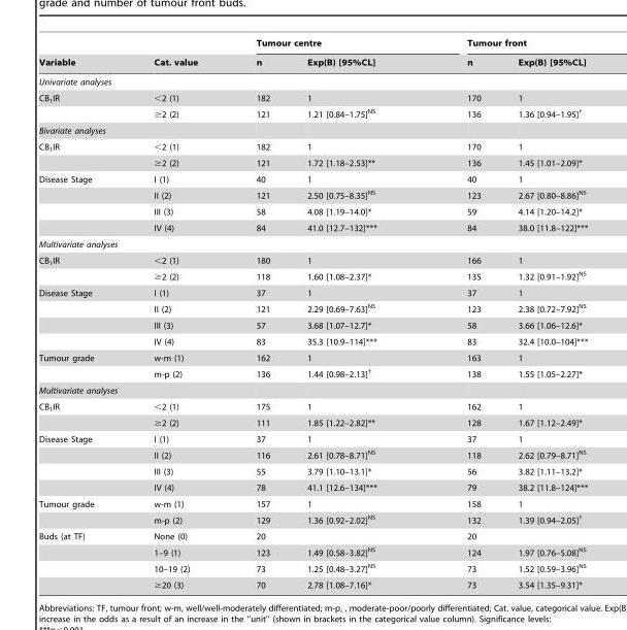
<table><thead><tr><td rowspan="2">Variable</td><td rowspan="2">Cat. value</td><td colspan="2">Tumour centre</td><td colspan="2">Tumour front</td></tr><tr><td>n</td><td>Exp(B) [95%CL]</td><td>n</td><td>Exp(B) [95%CL]</td></tr></thead><tbody><tr><td colspan="6">Univariate analyses</td></tr><tr><td rowspan="2">CB<sub>1</sub>IR</td><td>&lt;2 (1)</td><td>182</td><td>1</td><td>170</td><td>1</td></tr><tr><td>≥2 (2)</td><td>121</td><td>1.21 [0.84–1.75]<sup>NS</sup></td><td>136</td><td>1.36 [0.94–1.95]†</td></tr><tr><td colspan="6">Bivariate analyses</td></tr><tr><td rowspan="2">CB<sub>1</sub>IR</td><td>&lt;2 (1)</td><td>182</td><td>1</td><td>170</td><td>1</td></tr><tr><td>≥2 (2)</td><td>121</td><td>1.72 [1.18–2.53]**</td><td>136</td><td>1.45 [1.01–2.09]*</td></tr><tr><td rowspan="4">Disease Stage</td><td>I (1)</td><td>40</td><td>1</td><td>40</td><td>1</td></tr><tr><td>II (2)</td><td>121</td><td>2.50 [0.75–8.35]<sup>NS</sup></td><td>123</td><td>2.67 [0.80–8.86]<sup>NS</sup></td></tr><tr><td>III (3)</td><td>58</td><td>4.08 [1.19–14.0]*</td><td>59</td><td>4.14 [1.20–14.2]*</td></tr><tr><td>IV (4)</td><td>84</td><td>41.0 [12.7–132]***</td><td>84</td><td>38.0 [11.8–122]***</td></tr><tr><td colspan="6">Multivariate analyses</td></tr><tr><td rowspan="2">CB<sub>1</sub>IR</td><td>&lt;2 (1)</td><td>180</td><td>1</td><td>166</td><td>1</td></tr><tr><td>≥2 (2)</td><td>118</td><td>1.60 [1.08–2.37]*</td><td>135</td><td>1.32 [0.91–1.92]<sup>NS</sup></td></tr><tr><td rowspan="4">Disease Stage</td><td>I (1)</td><td>37</td><td>1</td><td>37</td><td>1</td></tr><tr><td>II (2)</td><td>121</td><td>2.29 [0.69–7.63]<sup>NS</sup></td><td>123</td><td>2.38 [0.72–7.92]<sup>NS</sup></td></tr><tr><td>III (3)</td><td>57</td><td>3.68 [1.07–12.7]*</td><td>58</td><td>3.66 [1.06–12.6]*</td></tr><tr><td>IV (4)</td><td>83</td><td>35.3 [10.9–114]***</td><td>83</td><td>32.4 [10.0–104]***</td></tr><tr><td rowspan="2">Tumour grade</td><td>w-m (1)</td><td>162</td><td>1</td><td>163</td><td>1</td></tr><tr><td>m-p (2)</td><td>136</td><td>1.44 [0.98–2.13]†</td><td>138</td><td>1.55 [1.05–2.27]*</td></tr><tr><td colspan="6">Multivariate analyses</td></tr><tr><td rowspan="2">CB<sub>1</sub>IR</td><td>&lt;2 (1)</td><td>175</td><td>1</td><td>162</td><td>1</td></tr><tr><td>≥2 (2)</td><td>111</td><td>1.85 [1.22–2.82]**</td><td>128</td><td>1.67 [1.12–2.49]*</td></tr><tr><td rowspan="4">Disease Stage</td><td>I (1)</td><td>37</td><td>1</td><td>37</td><td>1</td></tr><tr><td>II (2)</td><td>116</td><td>2.61 [0.78–8.71]<sup>NS</sup></td><td>118</td><td>2.62 [0.79–8.71]<sup>NS</sup></td></tr><tr><td>III (3)</td><td>55</td><td>3.79 [1.10–13.1]*</td><td>56</td><td>3.82 [1.11–13.2]*</td></tr><tr><td>IV (4)</td><td>78</td><td>41.1 [12.6–134]***</td><td>79</td><td>38.2 [11.8–124]***</td></tr><tr><td rowspan="2">Tumour grade</td><td>w-m (1)</td><td>157</td><td>1</td><td>158</td><td>1</td></tr><tr><td>m-p (2)</td><td>129</td><td>1.36 [0.92–2.02]<sup>NS</sup></td><td>132</td><td>1.39 [0.94–2.05]†</td></tr><tr><td rowspan="4">Buds (at TF)</td><td>None (0)</td><td>20</td><td></td><td>20</td><td></td></tr><tr><td>1–9 (1)</td><td>123</td><td>1.49 [0.58–3.82]<sup>NS</sup></td><td>124</td><td>1.97 [0.76–5.08]<sup>NS</sup></td></tr><tr><td>10–19 (2)</td><td>73</td><td>1.25 [0.48–3.27]<sup>NS</sup></td><td>73</td><td>1.52 [0.59–3.96]<sup>NS</sup></td></tr><tr><td>≥20 (3)</td><td>70</td><td>2.78 [1.08–7.16]*</td><td>73</td><td>3.54 [1.35–9.31]*</td></tr></tbody></table>